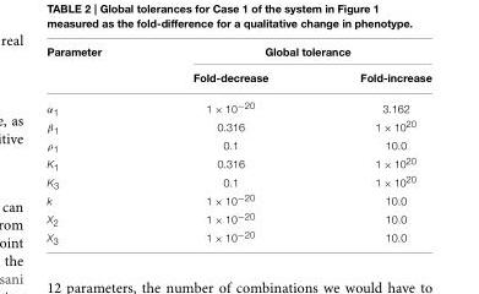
<table><thead><tr><td rowspan="2">Parameter</td><td colspan="2">Global tolerance</td></tr><tr><td>Fold-decrease</td><td>Fold-increase</td></tr></thead><tbody><tr><td>α<sub>1</sub></td><td>1 × 10<sup>−20</sup></td><td>3.162</td></tr><tr><td>β<sub>1</sub></td><td>0.316</td><td>1 × 10<sup>20</sup></td></tr><tr><td>ρ<sub>1</sub></td><td>0.1</td><td>10.0</td></tr><tr><td>K<sub>1</sub></td><td>0.316</td><td>1 × 10<sup>20</sup></td></tr><tr><td>K<sub>3</sub></td><td>0.1</td><td>1 × 10<sup>20</sup></td></tr><tr><td>k</td><td>1 × 10<sup>−20</sup></td><td>10.0</td></tr><tr><td>X<sub>2</sub></td><td>1 × 10<sup>−20</sup></td><td>10.0</td></tr><tr><td>X<sub>3</sub></td><td>1 × 10<sup>−20</sup></td><td>10.0</td></tr></tbody></table>